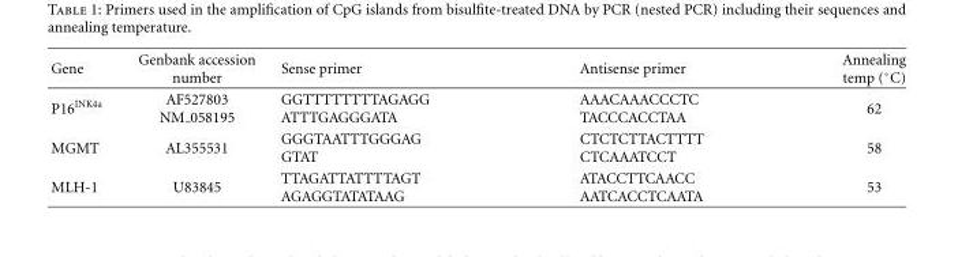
<table><thead><tr><td>Gene</td><td>Genbank accession number</td><td>Sense primer</td><td>Antisense primer</td><td>Annealing temp (◦C)</td></tr></thead><tbody><tr><td>P16<sup>INK4a</sup></td><td>AF527803 NM 058195</td><td>GGTTTTTTTTAGAGG ATTTGAGGGATA</td><td>AAACAAACCCTC TACCCACCTAA</td><td>62</td></tr><tr><td>MGMT</td><td>AL355531</td><td>GGGTAATTTGGGAG GTAT</td><td>CTCTCTTACTTTT CTCAAATCCT</td><td>58</td></tr><tr><td>MLH-1</td><td>U83845</td><td>TTAGATTATTTTAGT AGAGGTATATAAG</td><td>ATACCTTCAACC AATCACCTCAATA</td><td>53</td></tr></tbody></table>